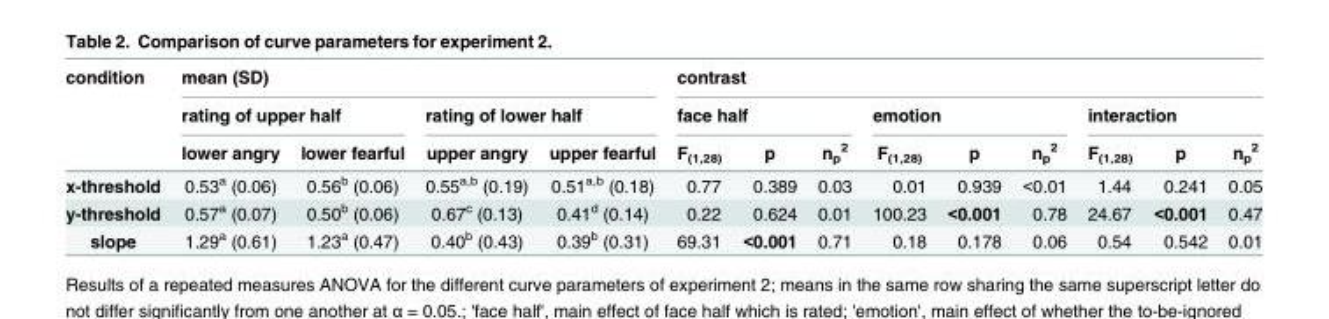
<table><thead><tr><td rowspan="3">condition</td><td colspan="4">mean (SD)</td><td colspan="9">contrast</td></tr><tr><td colspan="2">rating of upper half</td><td colspan="2">rating of lower half</td><td colspan="3">face half</td><td colspan="3">emotion</td><td colspan="3">interaction</td></tr><tr><td>lower angry</td><td>lower fearful</td><td>upper angry</td><td>upper fearful</td><td>F<sub>(1,28)</sub></td><td>p</td><td>n<sub>p</sub> <sup>2</sup></td><td>F<sub>(1,28)</sub></td><td>p</td><td>n<sub>p</sub> <sup>2</sup></td><td>F<sub>(1,28)</sub></td><td>p</td><td>n<sub>p</sub> <sup>2</sup></td></tr></thead><tbody><tr><td>x-threshold</td><td>0.53<sup>a</sup> (0.06)</td><td>0.56<sup>b</sup> (0.06)</td><td>0.55<sup>a,b</sup> (0.19)</td><td>0.51<sup>a,b</sup> (0.18)</td><td>0.77</td><td>0.389</td><td>0.03</td><td>0.01</td><td>0.939</td><td>&lt;0.01</td><td>1.44</td><td>0.241</td><td>0.05</td></tr><tr><td>y-threshold</td><td>0.57<sup>a</sup> (0.07)</td><td>0.50<sup>b</sup> (0.06)</td><td>0.67<sup>c</sup> (0.13)</td><td>0.41<sup>d</sup> (0.14)</td><td>0.22</td><td>0.624</td><td>0.01</td><td>100.23</td><td>&lt;0.001</td><td>0.78</td><td>24.67</td><td>&lt;0.001</td><td>0.47</td></tr><tr><td>slope</td><td>1.29<sup>a</sup> (0.61)</td><td>1.23<sup>a</sup> (0.47)</td><td>0.40<sup>b</sup> (0.43)</td><td>0.39<sup>b</sup> (0.31)</td><td>69.31</td><td>&lt;0.001</td><td>0.71</td><td>0.18</td><td>0.178</td><td>0.06</td><td>0.54</td><td>0.542</td><td>0.01</td></tr></tbody></table>